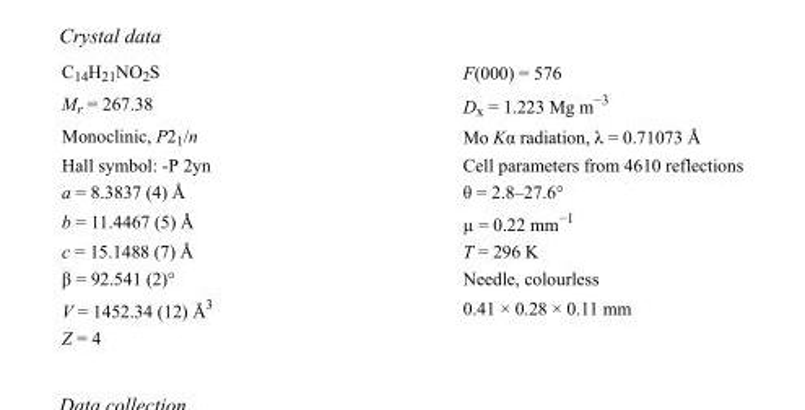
<table><tbody><tr><td>C<sub>14</sub>H<sub>21</sub>NO<sub>2</sub>S</td><td>F(000) = 576</td></tr><tr><td>M<sub>r</sub> = 267.38</td><td>D<sub>x</sub> = 1.223 Mg m<sup>−3</sup></td></tr><tr><td>Monoclinic, P2<sub>1</sub>/n</td><td>Mo Kα radiation, λ = 0.71073 Å</td></tr><tr><td>Hall symbol: -P 2yn</td><td>Cell parameters from 4610 reflections</td></tr><tr><td>a = 8.3837 (4) Å</td><td>θ = 2.8–27.6°</td></tr><tr><td>b = 11.4467 (5) Å</td><td>µ = 0.22 mm<sup>−1</sup></td></tr><tr><td>c = 15.1488 (7) Å</td><td>T = 296 K</td></tr><tr><td>β = 92.541 (2)°</td><td>Needle, colourless</td></tr><tr><td>V = 1452.34 (12) Å<sup>3</sup></td><td>0.41 × 0.28 × 0.11 mm</td></tr><tr><td>Z = 4</td><td></td></tr></tbody></table>